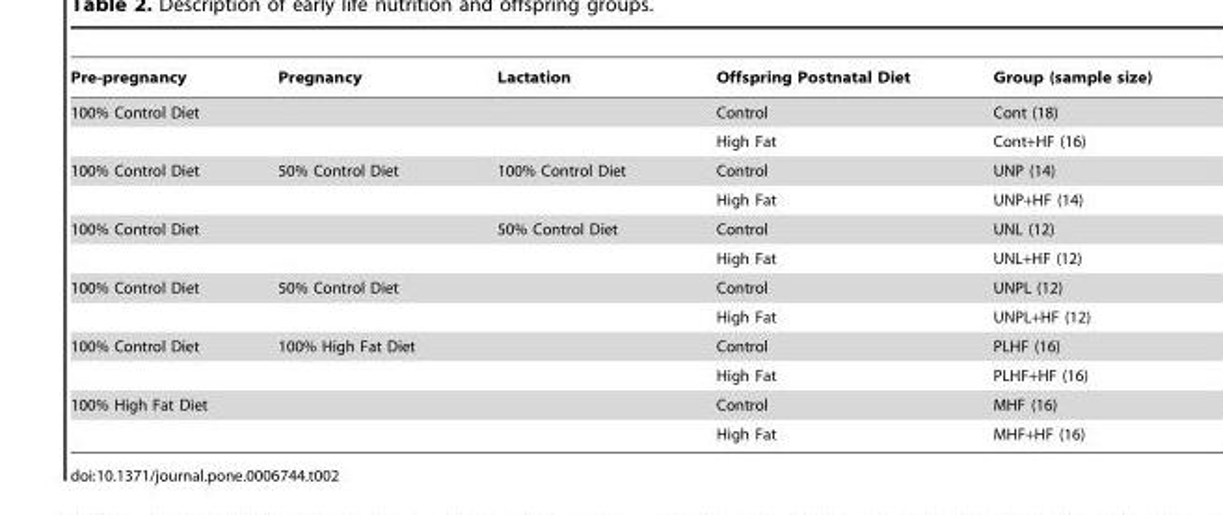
<table><thead><tr><td>Pre-pregnancy</td><td>Pregnancy</td><td>Lactation</td><td>Offspring Postnatal Diet</td><td>Group (sample size)</td></tr></thead><tbody><tr><td rowspan="2" colspan="3">100% Control Diet</td><td>Control</td><td>Cont (18)</td></tr><tr><td>High Fat</td><td>Cont+HF (16)</td></tr><tr><td rowspan="2">100% Control Diet</td><td>50% Control Diet</td><td>100% Control Diet</td><td>Control</td><td>UNP (14)</td></tr><tr><td></td><td></td><td>High Fat</td><td>UNP+HF (14)</td></tr><tr><td rowspan="2" colspan="2">100% Control Diet</td><td>50% Control Diet</td><td>Control</td><td>UNL (12)</td></tr><tr><td></td><td>High Fat</td><td>UNL+HF (12)</td></tr><tr><td rowspan="2">100% Control Diet</td><td colspan="2">50% Control Diet</td><td>Control</td><td>UNPL (12)</td></tr><tr><td colspan="2"></td><td>High Fat</td><td>UNPL+HF (12)</td></tr><tr><td rowspan="2">100% Control Diet</td><td colspan="2">100% High Fat Diet</td><td>Control</td><td>PLHF (16)</td></tr><tr><td colspan="2"></td><td>High Fat</td><td>PLHF+HF (16)</td></tr><tr><td rowspan="2" colspan="3">100% High Fat Diet</td><td>Control</td><td>MHF (16)</td></tr><tr><td>High Fat</td><td>MHF+HF (16)</td></tr></tbody></table>